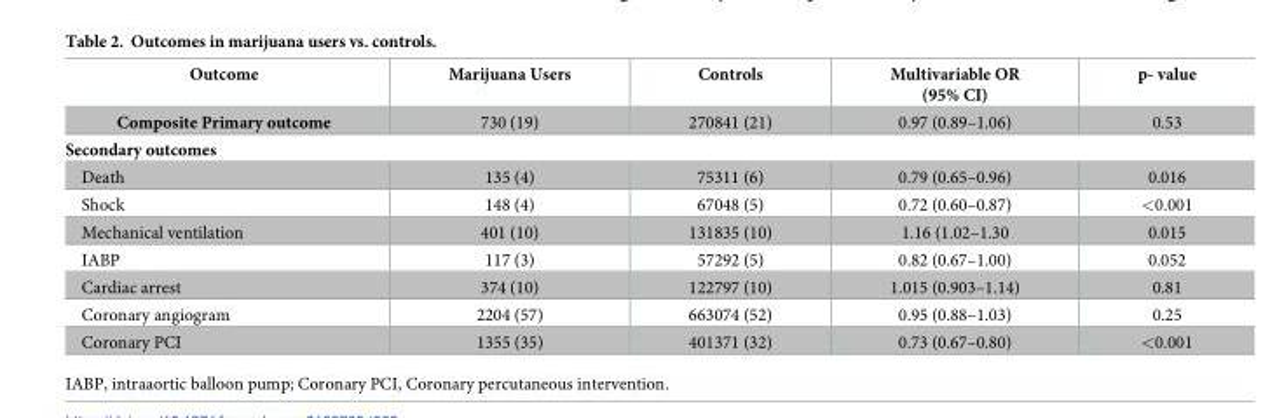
<table><thead><tr><td>Outcome</td><td>Marijuana Users</td><td>Controls</td><td>Multivariable OR (95% CI)</td><td>p- value</td></tr></thead><tbody><tr><td>Composite Primary outcome</td><td>730 (19)</td><td>270841 (21)</td><td>0.97 (0.89–1.06)</td><td>0.53</td></tr><tr><td colspan="5">Secondary outcomes</td></tr><tr><td>Death</td><td>135 (4)</td><td>75311 (6)</td><td>0.79 (0.65–0.96)</td><td>0.016</td></tr><tr><td>Shock</td><td>148 (4)</td><td>67048 (5)</td><td>0.72 (0.60–0.87)</td><td>&lt;0.001</td></tr><tr><td>Mechanical ventilation</td><td>401 (10)</td><td>131835 (10)</td><td>1.16 (1.02–1.30</td><td>0.015</td></tr><tr><td>IABP</td><td>117 (3)</td><td>57292 (5)</td><td>0.82 (0.67–1.00)</td><td>0.052</td></tr><tr><td>Cardiac arrest</td><td>374 (10)</td><td>122797 (10)</td><td>1.015 (0.903–1.14)</td><td>0.81</td></tr><tr><td>Coronary angiogram</td><td>2204 (57)</td><td>663074 (52)</td><td>0.95 (0.88–1.03)</td><td>0.25</td></tr><tr><td>Coronary PCI</td><td>1355 (35)</td><td>401371 (32)</td><td>0.73 (0.67–0.80)</td><td>&lt;0.001</td></tr></tbody></table>